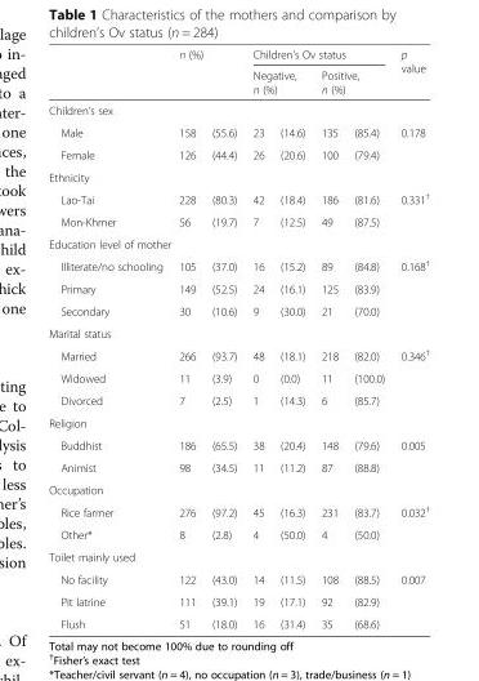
<table><thead><tr><td rowspan="2"></td><td rowspan="2" colspan="2">n (%)</td><td colspan="4">Children’s Ov status</td><td rowspan="2">p value</td></tr><tr><td colspan="2">Negative, n (%)</td><td colspan="2">Positive, n (%)</td></tr><tr><td colspan="8">Children’s sex</td></tr><tr><td>Male</td><td>158</td><td>(55.6)</td><td>23</td><td>(14.6)</td><td>135</td><td>(85.4)</td><td>0.178</td></tr></thead><tbody><tr><td>Female</td><td>126</td><td>(44.4)</td><td>26</td><td>(20.6)</td><td>100</td><td>(79.4)</td><td></td></tr><tr><td colspan="8">Ethnicity</td></tr><tr><td>Lao-Tai</td><td>228</td><td>(80.3)</td><td>42</td><td>(18.4)</td><td>186</td><td>(81.6)</td><td>0.331<sup>†</sup></td></tr><tr><td>Mon-Khmer</td><td>56</td><td>(19.7)</td><td>7</td><td>(12.5)</td><td>49</td><td>(87.5)</td><td></td></tr><tr><td colspan="8">Education level of mother</td></tr><tr><td>Illiterate/no schooling</td><td>105</td><td>(37.0)</td><td>16</td><td>(15.2)</td><td>89</td><td>(84.8)</td><td>0.168<sup>†</sup></td></tr><tr><td>Primary</td><td>149</td><td>(52.5)</td><td>24</td><td>(16.1)</td><td>125</td><td>(83.9)</td><td></td></tr><tr><td>Secondary</td><td>30</td><td>(10.6)</td><td>9</td><td>(30.0)</td><td>21</td><td>(70.0)</td><td></td></tr><tr><td colspan="8">Marital status</td></tr><tr><td>Married</td><td>266</td><td>(93.7)</td><td>48</td><td>(18.1)</td><td>218</td><td>(82.0)</td><td>0.346<sup>†</sup></td></tr><tr><td>Widowed</td><td>11</td><td>(3.9)</td><td>0</td><td>(0.0)</td><td>11</td><td>(100.0)</td><td></td></tr><tr><td>Divorced</td><td>7</td><td>(2.5)</td><td>1</td><td>(14.3)</td><td>6</td><td>(85.7)</td><td></td></tr><tr><td colspan="8">Religion</td></tr><tr><td>Buddhist</td><td>186</td><td>(65.5)</td><td>38</td><td>(20.4)</td><td>148</td><td>(79.6)</td><td>0.005</td></tr><tr><td>Animist</td><td>98</td><td>(34.5)</td><td>11</td><td>(11.2)</td><td>87</td><td>(88.8)</td><td></td></tr><tr><td colspan="8">Occupation</td></tr><tr><td>Rice farmer</td><td>276</td><td>(97.2)</td><td>45</td><td>(16.3)</td><td>231</td><td>(83.7)</td><td>0.032<sup>†</sup></td></tr><tr><td>Other*</td><td>8</td><td>(2.8)</td><td>4</td><td>(50.0)</td><td>4</td><td>(50.0)</td><td></td></tr><tr><td colspan="8">Toilet mainly used</td></tr><tr><td>No facility</td><td>122</td><td>(43.0)</td><td>14</td><td>(11.5)</td><td>108</td><td>(88.5)</td><td>0.007</td></tr><tr><td>Pit latrine</td><td>111</td><td>(39.1)</td><td>19</td><td>(17.1)</td><td>92</td><td>(82.9)</td><td></td></tr><tr><td>Flush</td><td>51</td><td>(18.0)</td><td>16</td><td>(31.4)</td><td>35</td><td>(68.6)</td><td></td></tr></tbody></table>